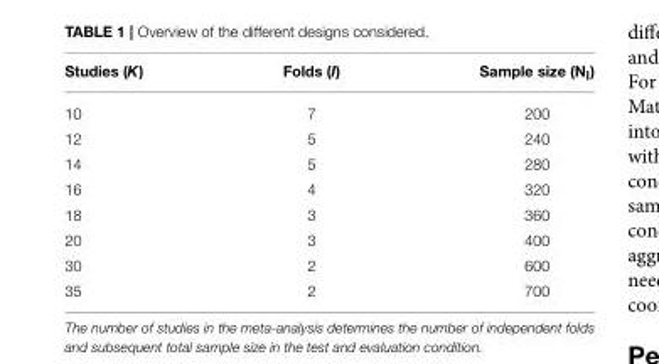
<table><thead><tr><td>Studies (K)</td><td>Folds (I)</td><td>Sample size (N<sub>l</sub>)</td></tr></thead><tbody><tr><td>10</td><td>7</td><td>200</td></tr><tr><td>12</td><td>5</td><td>240</td></tr><tr><td>14</td><td>5</td><td>280</td></tr><tr><td>16</td><td>4</td><td>320</td></tr><tr><td>18</td><td>3</td><td>360</td></tr><tr><td>20</td><td>3</td><td>400</td></tr><tr><td>30</td><td>2</td><td>600</td></tr><tr><td>35</td><td>2</td><td>700</td></tr></tbody></table>